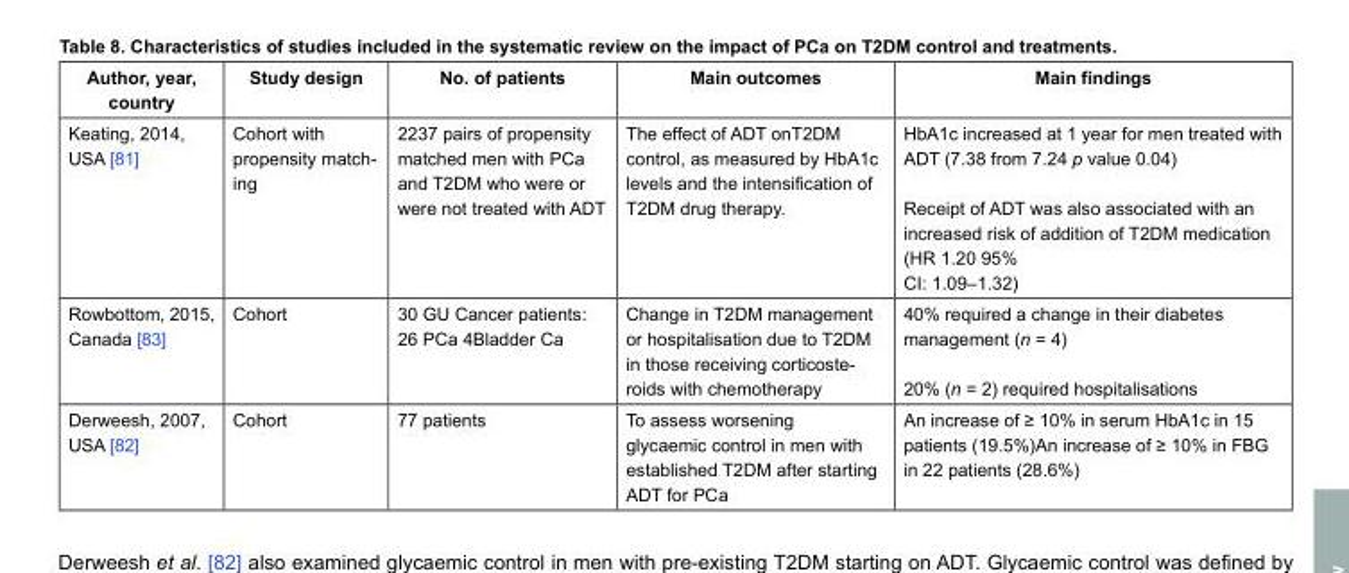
<table><thead><tr><td>Author, year, country</td><td>Study design</td><td>No. of patients</td><td>Main outcomes</td><td>Main findings</td></tr></thead><tbody><tr><td>Keating, 2014, USA [81]</td><td>Cohort with propensity match- ing</td><td>2237 pairs of propensity matched men with PCa and T2DM who were or were not treated with ADT</td><td>The effect of ADT onT2DM control, as measured by HbA1c levels and the intensification of T2DM drug therapy.</td><td>HbA1c increased at 1 year for men treated with ADT (7.38 from 7.24 p value 0.04) Receipt of ADT was also associated with an increased risk of addition of T2DM medication (HR 1.20 95% CI: 1.09–1.32)</td></tr><tr><td>Rowbottom, 2015, Canada [83]</td><td>Cohort</td><td>30 GU Cancer patients: 26 PCa 4Bladder Ca</td><td>Change in T2DM management or hospitalisation due to T2DM in those receiving corticoste- roids with chemotherapy</td><td>40% required a change in their diabetes management (n = 4) 20% (n = 2) required hospitalisations</td></tr><tr><td>Derweesh, 2007, USA [82]</td><td>Cohort</td><td>77 patients</td><td>To assess worsening glycaemic control in men with established T2DM after starting ADT for PCa</td><td>An increase of ≥ 10% in serum HbA1c in 15 patients (19.5%)An increase of ≥ 10% in FBG in 22 patients (28.6%)</td></tr></tbody></table>